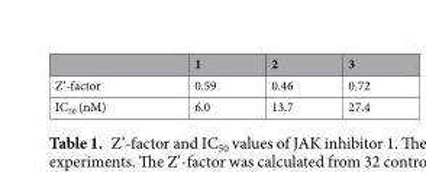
<table><thead><tr><td></td><td>1</td><td>2</td><td>3</td></tr></thead><tbody><tr><td>Z’-factor</td><td>0.59</td><td>0.46</td><td>0.72</td></tr><tr><td>IC<sub>50</sub> (nM)</td><td>6.0</td><td>13.7</td><td>27.4</td></tr></tbody></table>